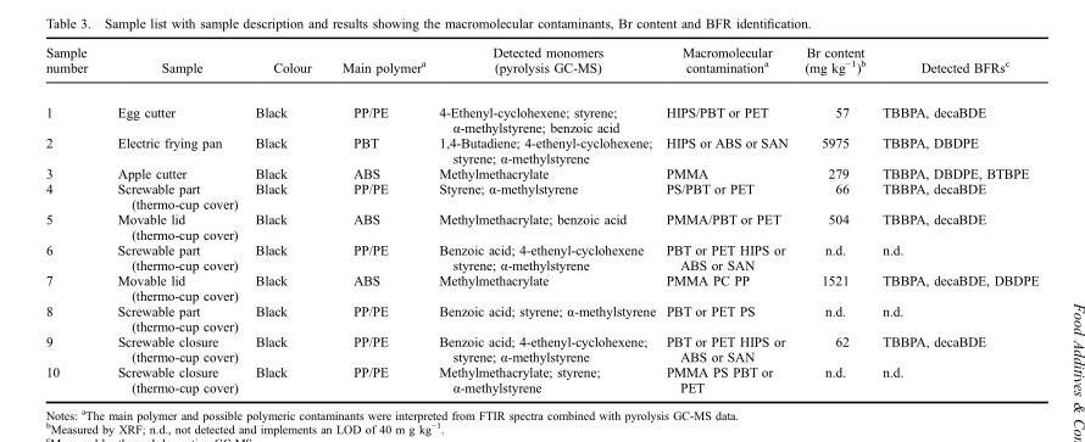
<table><thead><tr><td>Sample number</td><td>Sample</td><td>Colour</td><td>Main polymer<sup>a</sup></td><td>Detected monomers (pyrolysis GC-MS)</td><td>Macromolecular contamination<sup>a</sup></td><td>Br content (mg kg<sup>−1</sup>)<sup>b</sup></td><td>Detected BFRs<sup>c</sup></td></tr></thead><tbody><tr><td>1</td><td>Egg cutter</td><td>Black</td><td>PP/PE</td><td>4-Ethenyl-cyclohexene; styrene; α-methylstyrene; benzoic acid</td><td>HIPS/PBT or PET</td><td>57</td><td>TBBPA, decaBDE</td></tr><tr><td>2</td><td>Electric frying pan</td><td>Black</td><td>PBT</td><td>1,4-Butadiene; 4-ethenyl-cyclohexene; styrene; α-methylstyrene</td><td>HIPS or ABS or SAN</td><td>5975</td><td>TBBPA, DBDPE</td></tr><tr><td>3</td><td>Apple cutter</td><td>Black</td><td>ABS</td><td>Methylmethacrylate</td><td>PMMA</td><td>279</td><td>TBBPA, DBDPE, BTBPE</td></tr><tr><td>4</td><td>Screwable part (thermo-cup cover)</td><td>Black</td><td>PP/PE</td><td>Styrene; α-methylstyrene</td><td>PS/PBT or PET</td><td>66</td><td>TBBPA, decaBDE</td></tr><tr><td>5</td><td>Movable lid (thermo-cup cover)</td><td>Black</td><td>ABS</td><td>Methylmethacrylate; benzoic acid</td><td>PMMA/PBT or PET</td><td>504</td><td>TBBPA, decaBDE</td></tr><tr><td>6</td><td>Screwable part (thermo-cup cover)</td><td>Black</td><td>PP/PE</td><td>Benzoic acid; 4-ethenyl-cyclohexene styrene; α-methylstyrene</td><td>PBT or PET HIPS or ABS or SAN</td><td>n.d.</td><td>n.d.</td></tr><tr><td>7</td><td>Movable lid (thermo-cup cover)</td><td>Black</td><td>ABS</td><td>Methylmethacrylate</td><td>PMMA PC PP</td><td>1521</td><td>TBBPA, decaBDE, DBDPE</td></tr><tr><td>8</td><td>Screwable part (thermo-cup cover)</td><td>Black</td><td>PP/PE</td><td>Benzoic acid; styrene; α-methylstyrene</td><td>PBT or PET PS</td><td>n.d.</td><td>n.d.</td></tr><tr><td>9</td><td>Screwable closure (thermo-cup cover)</td><td>Black</td><td>PP/PE</td><td>Benzoic acid; 4-ethenyl-cyclohexene; styrene; α-methylstyrene</td><td>PBT or PET HIPS or ABS or SAN</td><td>62</td><td>TBBPA, decaBDE</td></tr><tr><td>10</td><td>Screwable closure (thermo-cup cover)</td><td>Black</td><td>PP/PE</td><td>Methylmethacrylate; styrene; α-methylstyrene</td><td>PMMA PS PBT or PET</td><td>n.d.</td><td>n.d.</td></tr></tbody></table>